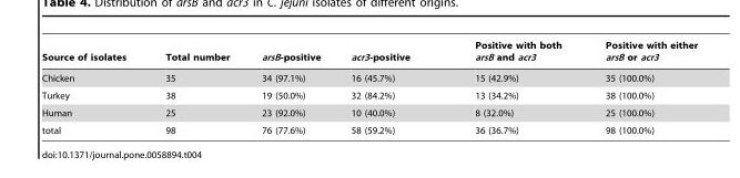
<table><thead><tr><td>Source of isolates</td><td>Total number</td><td>arsB-positive</td><td>acr3-positive</td><td>Positive with both arsB and acr3</td><td>Positive with either arsB or acr3</td></tr></thead><tbody><tr><td>Chicken</td><td>35</td><td>34 (97.1%)</td><td>16 (45.7%)</td><td>15 (42.9%)</td><td>35 (100.0%)</td></tr><tr><td>Turkey</td><td>38</td><td>19 (50.0%)</td><td>32 (84.2%)</td><td>13 (34.2%)</td><td>38 (100.0%)</td></tr><tr><td>Human</td><td>25</td><td>23 (92.0%)</td><td>10 (40.0%)</td><td>8 (32.0%)</td><td>25 (100.0%)</td></tr><tr><td>total</td><td>98</td><td>76 (77.6%)</td><td>58 (59.2%)</td><td>36 (36.7%)</td><td>98 (100.0%)</td></tr></tbody></table>